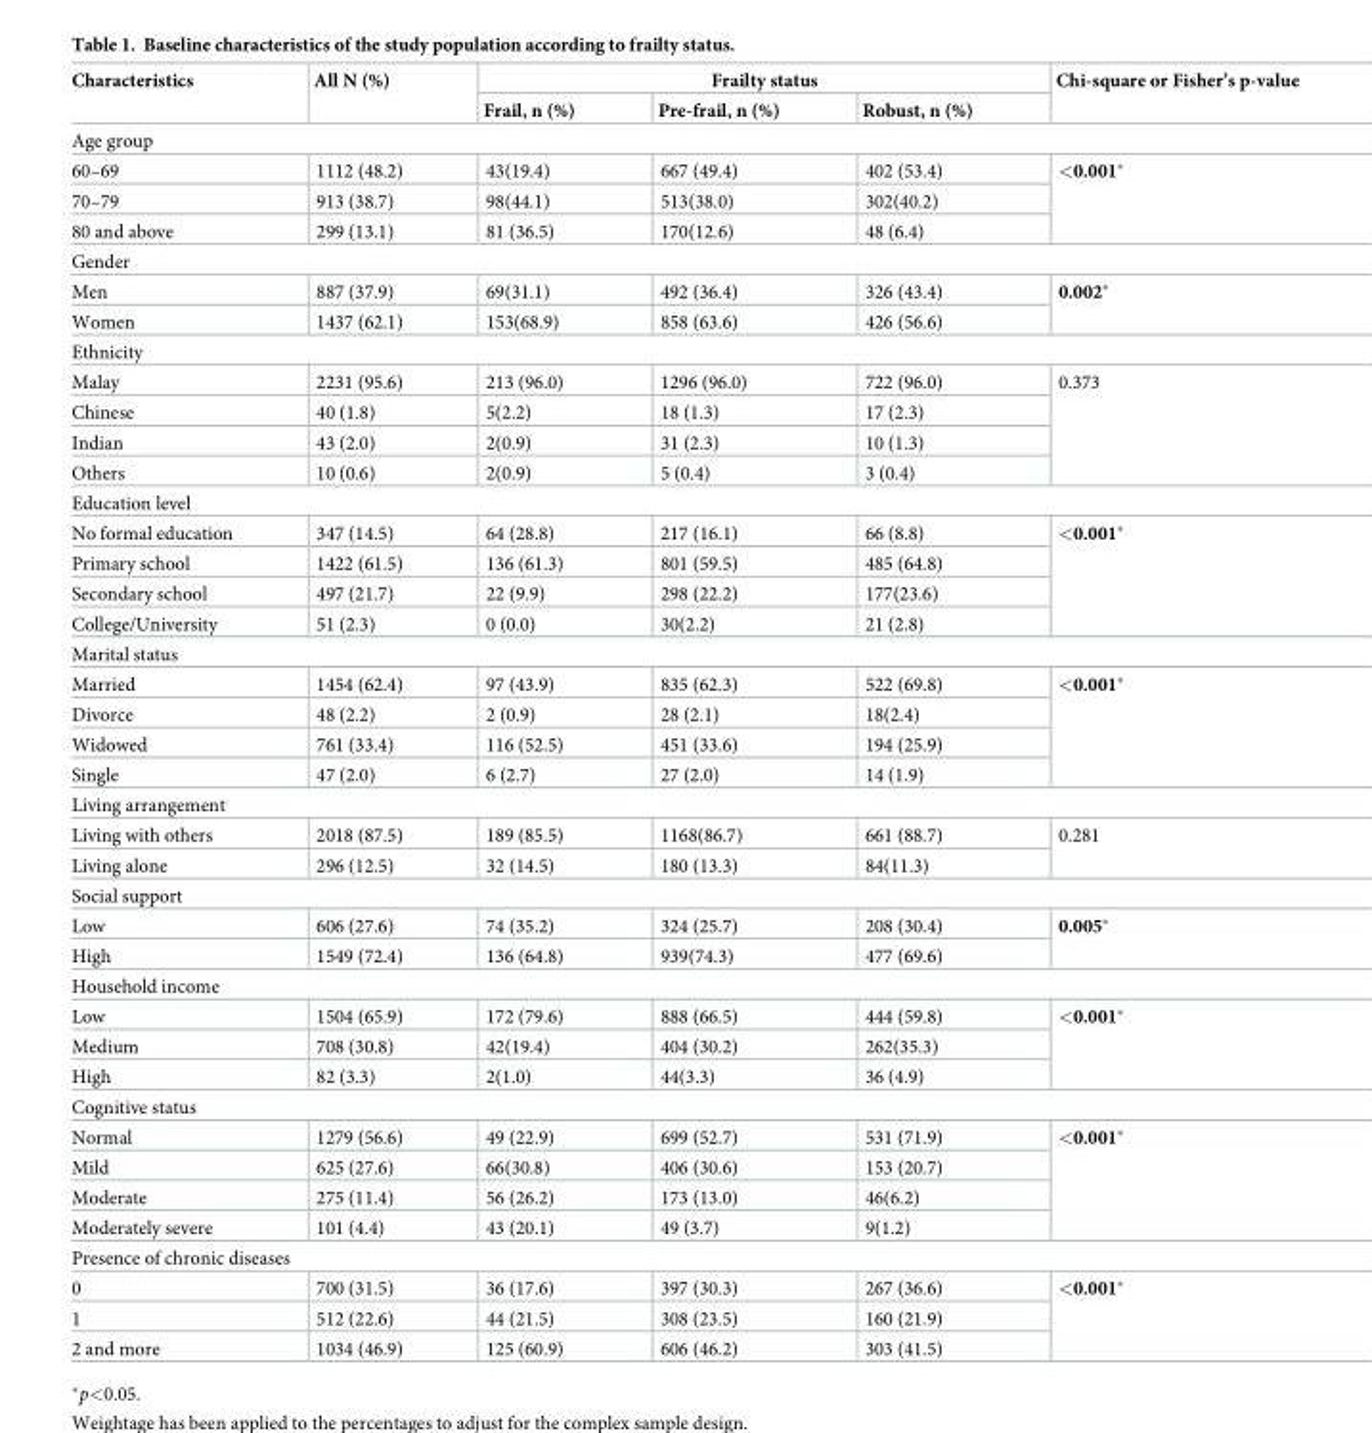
<table><thead><tr><td rowspan="2">Characteristics</td><td rowspan="2">All N (%)</td><td colspan="3">Frailty status</td><td rowspan="2">Chi-square or Fisher’s p-value</td></tr><tr><td>Frail, n (%)</td><td>Pre-frail, n (%)</td><td>Robust, n (%)</td></tr></thead><tbody><tr><td colspan="6">Age group</td></tr><tr><td>60–69</td><td>1112 (48.2)</td><td>43(19.4)</td><td>667 (49.4)</td><td>402 (53.4)</td><td rowspan="3">&lt;0.001*</td></tr><tr><td>70–79</td><td>913 (38.7)</td><td>98(44.1)</td><td>513(38.0)</td><td>302(40.2)</td></tr><tr><td>80 and above</td><td>299 (13.1)</td><td>81 (36.5)</td><td>170(12.6)</td><td>48 (6.4)</td></tr><tr><td colspan="6">Gender</td></tr><tr><td>Men</td><td>887 (37.9)</td><td>69(31.1)</td><td>492 (36.4)</td><td>326 (43.4)</td><td rowspan="2">0.002*</td></tr><tr><td>Women</td><td>1437 (62.1)</td><td>153(68.9)</td><td>858 (63.6)</td><td>426 (56.6)</td></tr><tr><td colspan="6">Ethnicity</td></tr><tr><td>Malay</td><td>2231 (95.6)</td><td>213 (96.0)</td><td>1296 (96.0)</td><td>722 (96.0)</td><td rowspan="4">0.373</td></tr><tr><td>Chinese</td><td>40 (1.8)</td><td>5(2.2)</td><td>18 (1.3)</td><td>17 (2.3)</td></tr><tr><td>Indian</td><td>43 (2.0)</td><td>2(0.9)</td><td>31 (2.3)</td><td>10 (1.3)</td></tr><tr><td>Others</td><td>10 (0.6)</td><td>2(0.9)</td><td>5 (0.4)</td><td>3 (0.4)</td></tr><tr><td colspan="6">Education level</td></tr><tr><td>No formal education</td><td>347 (14.5)</td><td>64 (28.8)</td><td>217 (16.1)</td><td>66 (8.8)</td><td rowspan="4">&lt;0.001*</td></tr><tr><td>Primary school</td><td>1422 (61.5)</td><td>136 (61.3)</td><td>801 (59.5)</td><td>485 (64.8)</td></tr><tr><td>Secondary school</td><td>497 (21.7)</td><td>22 (9.9)</td><td>298 (22.2)</td><td>177(23.6)</td></tr><tr><td>College/University</td><td>51 (2.3)</td><td>0 (0.0)</td><td>30(2.2)</td><td>21 (2.8)</td></tr><tr><td colspan="6">Marital status</td></tr><tr><td>Married</td><td>1454 (62.4)</td><td>97 (43.9)</td><td>835 (62.3)</td><td>522 (69.8)</td><td rowspan="4">&lt;0.001*</td></tr><tr><td>Divorce</td><td>48 (2.2)</td><td>2 (0.9)</td><td>28 (2.1)</td><td>18(2.4)</td></tr><tr><td>Widowed</td><td>761 (33.4)</td><td>116 (52.5)</td><td>451 (33.6)</td><td>194 (25.9)</td></tr><tr><td>Single</td><td>47 (2.0)</td><td>6 (2.7)</td><td>27 (2.0)</td><td>14 (1.9)</td></tr><tr><td colspan="6">Living arrangement</td></tr><tr><td>Living with others</td><td>2018 (87.5)</td><td>189 (85.5)</td><td>1168(86.7)</td><td>661 (88.7)</td><td rowspan="2">0.281</td></tr><tr><td>Living alone</td><td>296 (12.5)</td><td>32 (14.5)</td><td>180 (13.3)</td><td>84(11.3)</td></tr><tr><td colspan="6">Social support</td></tr><tr><td>Low</td><td>606 (27.6)</td><td>74 (35.2)</td><td>324 (25.7)</td><td>208 (30.4)</td><td rowspan="2">0.005*</td></tr><tr><td>High</td><td>1549 (72.4)</td><td>136 (64.8)</td><td>939(74.3)</td><td>477 (69.6)</td></tr><tr><td colspan="6">Household income</td></tr><tr><td>Low</td><td>1504 (65.9)</td><td>172 (79.6)</td><td>888 (66.5)</td><td>444 (59.8)</td><td rowspan="3">&lt;0.001*</td></tr><tr><td>Medium</td><td>708 (30.8)</td><td>42(19.4)</td><td>404 (30.2)</td><td>262(35.3)</td></tr><tr><td>High</td><td>82 (3.3)</td><td>2(1.0)</td><td>44(3.3)</td><td>36 (4.9)</td></tr><tr><td colspan="6">Cognitive status</td></tr><tr><td>Normal</td><td>1279 (56.6)</td><td>49 (22.9)</td><td>699 (52.7)</td><td>531 (71.9)</td><td rowspan="4">&lt;0.001*</td></tr><tr><td>Mild</td><td>625 (27.6)</td><td>66(30.8)</td><td>406 (30.6)</td><td>153 (20.7)</td></tr><tr><td>Moderate</td><td>275 (11.4)</td><td>56 (26.2)</td><td>173 (13.0)</td><td>46(6.2)</td></tr><tr><td>Moderately severe</td><td>101 (4.4)</td><td>43 (20.1)</td><td>49 (3.7)</td><td>9(1.2)</td></tr><tr><td colspan="6">Presence of chronic diseases</td></tr><tr><td>0</td><td>700 (31.5)</td><td>36 (17.6)</td><td>397 (30.3)</td><td>267 (36.6)</td><td rowspan="3">&lt;0.001*</td></tr><tr><td>1</td><td>512 (22.6)</td><td>44 (21.5)</td><td>308 (23.5)</td><td>160 (21.9)</td></tr><tr><td>2 and more</td><td>1034 (46.9)</td><td>125 (60.9)</td><td>606 (46.2)</td><td>303 (41.5)</td></tr></tbody></table>